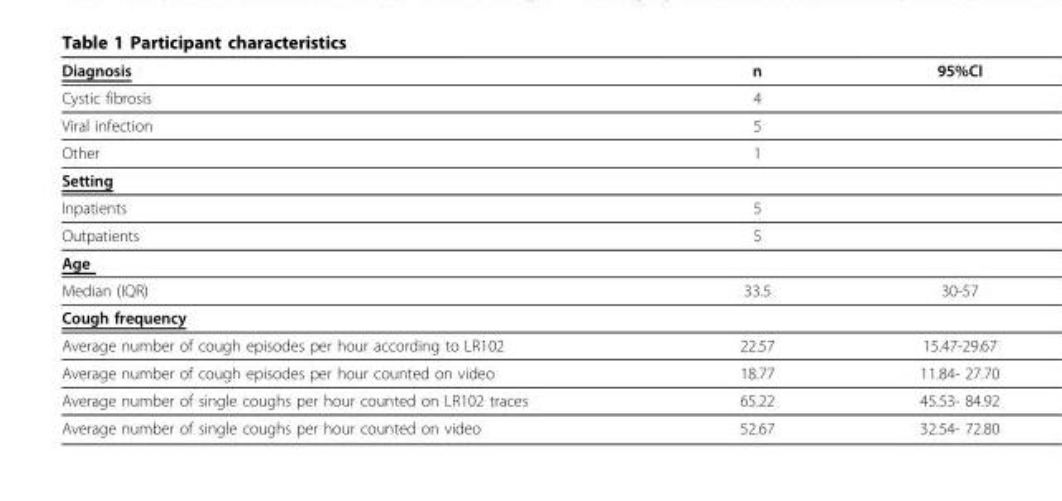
<table><thead><tr><td>Diagnosis</td><td>n</td><td>95%CI</td></tr></thead><tbody><tr><td>Cystic fibrosis</td><td>4</td><td></td></tr><tr><td>Viral infection</td><td>5</td><td></td></tr><tr><td>Other</td><td>1</td><td></td></tr><tr><td colspan="3">Setting</td></tr><tr><td>Inpatients</td><td>5</td><td></td></tr><tr><td>Outpatients</td><td>5</td><td></td></tr><tr><td colspan="3">Age</td></tr><tr><td>Median (IQR)</td><td>33.5</td><td>30-57</td></tr><tr><td colspan="3">Cough frequency</td></tr><tr><td>Average number of cough episodes per hour according to LR102</td><td>22.57</td><td>15.47-29.67</td></tr><tr><td>Average number of cough episodes per hour counted on video</td><td>18.77</td><td>11.84- 27.70</td></tr><tr><td>Average number of single coughs per hour counted on LR102 traces</td><td>65.22</td><td>45.53- 84.92</td></tr><tr><td>Average number of single coughs per hour counted on video</td><td>52.67</td><td>32.54- 72.80</td></tr></tbody></table>